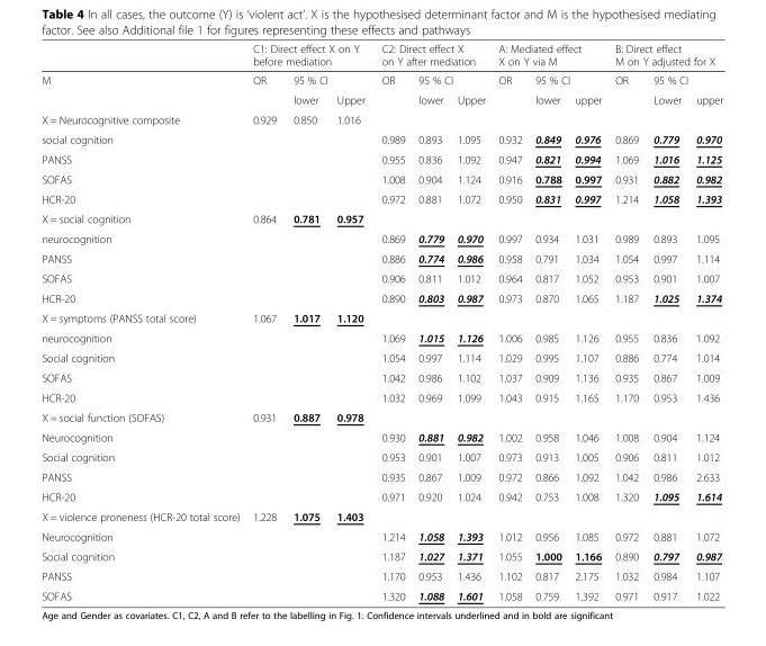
<table><thead><tr><td rowspan="3">M</td><td colspan="3">C1: Direct effect X on Y before mediation</td><td colspan="3">C2: Direct effect X on Y after mediation</td><td colspan="3">A: Mediated effect X on Y via M</td><td colspan="3">B: Direct effect M on Y adjusted for X</td></tr><tr><td rowspan="2">OR</td><td colspan="2">95 % CI</td><td rowspan="2">OR</td><td colspan="2">95 % CI</td><td rowspan="2">OR</td><td colspan="2">95 % CI</td><td rowspan="2">OR</td><td colspan="2">95 % CI</td></tr><tr><td>lower</td><td>Upper</td><td>lower</td><td>Upper</td><td>lower</td><td>upper</td><td>Lower</td><td>upper</td></tr></thead><tbody><tr><td>X = Neurocognitive composite</td><td>0.929</td><td>0.850</td><td>1.016</td><td></td><td></td><td></td><td></td><td></td><td></td><td></td><td></td><td></td></tr><tr><td>social cognition</td><td></td><td></td><td></td><td>0.989</td><td>0.893</td><td>1.095</td><td>0.932</td><td>0.849</td><td>0.976</td><td>0.869</td><td>0.779</td><td>0.970</td></tr><tr><td>PANSS</td><td></td><td></td><td></td><td>0.955</td><td>0.836</td><td>1.092</td><td>0.947</td><td>0.821</td><td>0.994</td><td>1.069</td><td>1.016</td><td>1.125</td></tr><tr><td>SOFAS</td><td></td><td></td><td></td><td>1.008</td><td>0.904</td><td>1.124</td><td>0.916</td><td>0.788</td><td>0.997</td><td>0.931</td><td>0.882</td><td>0.982</td></tr><tr><td>HCR-20</td><td></td><td></td><td></td><td>0.972</td><td>0.881</td><td>1.072</td><td>0.950</td><td>0.831</td><td>0.997</td><td>1.214</td><td>1.058</td><td>1.393</td></tr><tr><td>X = social cognition</td><td>0.864</td><td>0.781</td><td>0.957</td><td></td><td></td><td></td><td></td><td></td><td></td><td></td><td></td><td></td></tr><tr><td>neurocognition</td><td></td><td></td><td></td><td>0.869</td><td>0.779</td><td>0.970</td><td>0.997</td><td>0.934</td><td>1.031</td><td>0.989</td><td>0.893</td><td>1.095</td></tr><tr><td>PANSS</td><td></td><td></td><td></td><td>0.886</td><td>0.774</td><td>0.986</td><td>0.958</td><td>0.791</td><td>1.034</td><td>1.054</td><td>0.997</td><td>1.114</td></tr><tr><td>SOFAS</td><td></td><td></td><td></td><td>0.906</td><td>0.811</td><td>1.012</td><td>0.964</td><td>0.817</td><td>1.052</td><td>0.953</td><td>0.901</td><td>1.007</td></tr><tr><td>HCR-20</td><td></td><td></td><td></td><td>0.890</td><td>0.803</td><td>0.987</td><td>0.973</td><td>0.870</td><td>1.065</td><td>1.187</td><td>1.025</td><td>1.374</td></tr><tr><td>X = symptoms (PANSS total score)</td><td>1.067</td><td>1.017</td><td>1.120</td><td></td><td></td><td></td><td></td><td></td><td></td><td></td><td></td><td></td></tr><tr><td>neurocognition</td><td></td><td></td><td></td><td>1.069</td><td>1.015</td><td>1.126</td><td>1.006</td><td>0.985</td><td>1.126</td><td>0.955</td><td>0.836</td><td>1.092</td></tr><tr><td>Social cognition</td><td></td><td></td><td></td><td>1.054</td><td>0.997</td><td>1.114</td><td>1.029</td><td>0.995</td><td>1.107</td><td>0.886</td><td>0.774</td><td>1.014</td></tr><tr><td>SOFAS</td><td></td><td></td><td></td><td>1.042</td><td>0.986</td><td>1.102</td><td>1.037</td><td>0.909</td><td>1.136</td><td>0.935</td><td>0.867</td><td>1.009</td></tr><tr><td>HCR-20</td><td></td><td></td><td></td><td>1.032</td><td>0.969</td><td>1.099</td><td>1.043</td><td>0.915</td><td>1.165</td><td>1.170</td><td>0.953</td><td>1.436</td></tr><tr><td>X = social function (SOFAS)</td><td>0.931</td><td>0.887</td><td>0.978</td><td></td><td></td><td></td><td></td><td></td><td></td><td></td><td></td><td></td></tr><tr><td>Neurocognition</td><td></td><td></td><td></td><td>0.930</td><td>0.881</td><td>0.982</td><td>1.002</td><td>0.958</td><td>1.046</td><td>1.008</td><td>0.904</td><td>1.124</td></tr><tr><td>Social cognition</td><td></td><td></td><td></td><td>0.953</td><td>0.901</td><td>1.007</td><td>0.973</td><td>0.913</td><td>1.005</td><td>0.906</td><td>0.811</td><td>1.012</td></tr><tr><td>PANSS</td><td></td><td></td><td></td><td>0.935</td><td>0.867</td><td>1.009</td><td>0.972</td><td>0.866</td><td>1.092</td><td>1.042</td><td>0.986</td><td>2.633</td></tr><tr><td>HCR-20</td><td></td><td></td><td></td><td>0.971</td><td>0.920</td><td>1.024</td><td>0.942</td><td>0.753</td><td>1.008</td><td>1.320</td><td>1.095</td><td>1.614</td></tr><tr><td>X = violence proneness (HCR-20 total score)</td><td>1.228</td><td>1.075</td><td>1.403</td><td></td><td></td><td></td><td></td><td></td><td></td><td></td><td></td><td></td></tr><tr><td>Neurocognition</td><td></td><td></td><td></td><td>1.214</td><td>1.058</td><td>1.393</td><td>1.012</td><td>0.956</td><td>1.085</td><td>0.972</td><td>0.881</td><td>1.072</td></tr><tr><td>Social cognition</td><td></td><td></td><td></td><td>1.187</td><td>1.027</td><td>1.371</td><td>1.055</td><td>1.000</td><td>1.166</td><td>0.890</td><td>0.797</td><td>0.987</td></tr><tr><td>PANSS</td><td></td><td></td><td></td><td>1.170</td><td>0.953</td><td>1.436</td><td>1.102</td><td>0.817</td><td>2.175</td><td>1.032</td><td>0.984</td><td>1.107</td></tr><tr><td>SOFAS</td><td></td><td></td><td></td><td>1.320</td><td>1.088</td><td>1.601</td><td>1.058</td><td>0.759</td><td>1.392</td><td>0.971</td><td>0.917</td><td>1.022</td></tr></tbody></table>